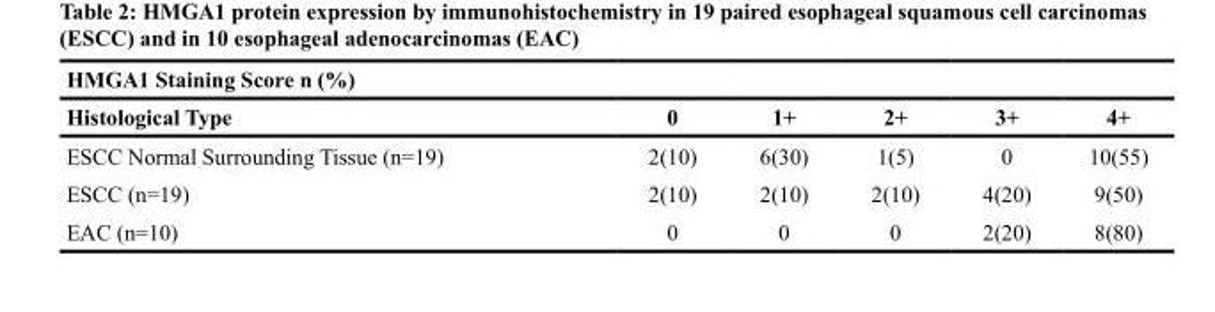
<table><thead><tr><td colspan="6">HMGA1 Staining Score n (%)</td></tr><tr><td>Histological Type</td><td>0</td><td>1+</td><td>2+</td><td>3+</td><td>4+</td></tr></thead><tbody><tr><td>ESCC Normal Surrounding Tissue (n=19)</td><td>2(10)</td><td>6(30)</td><td>1(5)</td><td>0</td><td>10(55)</td></tr><tr><td>ESCC (n=19)</td><td>2(10)</td><td>2(10)</td><td>2(10)</td><td>4(20)</td><td>9(50)</td></tr><tr><td>EAC (n=10)</td><td>0</td><td>0</td><td>0</td><td>2(20)</td><td>8(80)</td></tr></tbody></table>